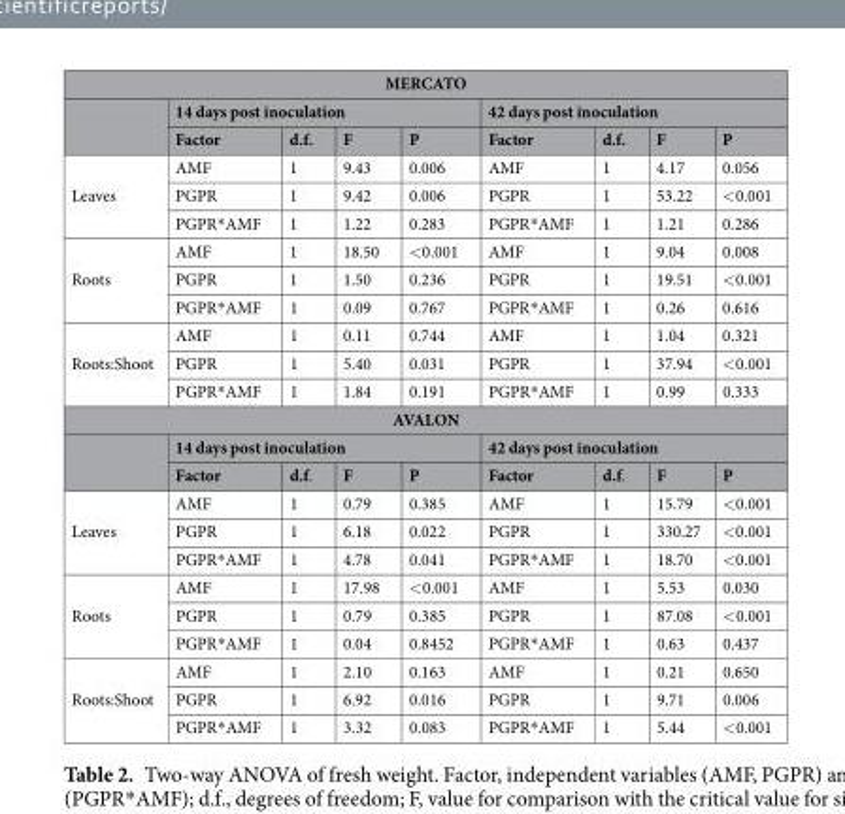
<table><thead><tr><td colspan="9">MERCATO</td></tr><tr><td rowspan="2"></td><td colspan="4">14 days post inoculation</td><td colspan="4">42 days post inoculation</td></tr><tr><td>Factor</td><td>d.f.</td><td>F</td><td>P</td><td>Factor</td><td>d.f.</td><td>F</td><td>P</td></tr></thead><tbody><tr><td rowspan="3">Leaves</td><td>AMF</td><td>1</td><td>9.43</td><td>0.006</td><td>AMF</td><td>1</td><td>4.17</td><td>0.056</td></tr><tr><td>PGPR</td><td>1</td><td>9.42</td><td>0.006</td><td>PGPR</td><td>1</td><td>53.22</td><td>&lt;0.001</td></tr><tr><td>PGPR*AMF</td><td>1</td><td>1.22</td><td>0.283</td><td>PGPR*AMF</td><td>1</td><td>1.21</td><td>0.286</td></tr><tr><td rowspan="3">Roots</td><td>AMF</td><td>1</td><td>18.50</td><td>&lt;0.001</td><td>AMF</td><td>1</td><td>9.04</td><td>0.008</td></tr><tr><td>PGPR</td><td>1</td><td>1.50</td><td>0.236</td><td>PGPR</td><td>1</td><td>19.51</td><td>&lt;0.001</td></tr><tr><td>PGPR*AMF</td><td>1</td><td>0.09</td><td>0.767</td><td>PGPR*AMF</td><td>1</td><td>0.26</td><td>0.616</td></tr><tr><td rowspan="3">Roots:Shoot</td><td>AMF</td><td>1</td><td>0.11</td><td>0.744</td><td>AMF</td><td>1</td><td>1.04</td><td>0.321</td></tr><tr><td>PGPR</td><td>1</td><td>5.40</td><td>0.031</td><td>PGPR</td><td>1</td><td>37.94</td><td>&lt;0.001</td></tr><tr><td>PGPR*AMF</td><td>1</td><td>1.84</td><td>0.191</td><td>PGPR*AMF</td><td>1</td><td>0.99</td><td>0.333</td></tr><tr><td colspan="9">AVALON</td></tr><tr><td rowspan="2"></td><td colspan="4">14 days post inoculation</td><td colspan="4">42 days post inoculation</td></tr><tr><td>Factor</td><td>d.f.</td><td>F</td><td>P</td><td>Factor</td><td>d.f.</td><td>F</td><td>P</td></tr><tr><td rowspan="3">Leaves</td><td>AMF</td><td>1</td><td>0.79</td><td>0.385</td><td>AMF</td><td>1</td><td>15.79</td><td>&lt;0.001</td></tr><tr><td>PGPR</td><td>1</td><td>6.18</td><td>0.022</td><td>PGPR</td><td>1</td><td>330.27</td><td>&lt;0.001</td></tr><tr><td>PGPR*AMF</td><td>1</td><td>4.78</td><td>0.041</td><td>PGPR*AMF</td><td>1</td><td>18.70</td><td>&lt;0.001</td></tr><tr><td rowspan="3">Roots</td><td>AMF</td><td>1</td><td>17.98</td><td>&lt;0.001</td><td>AMF</td><td>1</td><td>5.53</td><td>0.030</td></tr><tr><td>PGPR</td><td>1</td><td>0.79</td><td>0.385</td><td>PGPR</td><td>1</td><td>87.08</td><td>&lt;0.001</td></tr><tr><td>PGPR*AMF</td><td>1</td><td>0.04</td><td>0.8452</td><td>PGPR*AMF</td><td>1</td><td>0.63</td><td>0.437</td></tr><tr><td rowspan="3">Roots:Shoot</td><td>AMF</td><td>1</td><td>2.10</td><td>0.163</td><td>AMF</td><td>1</td><td>0.21</td><td>0.650</td></tr><tr><td>PGPR</td><td>1</td><td>6.92</td><td>0.016</td><td>PGPR</td><td>1</td><td>9.71</td><td>0.006</td></tr><tr><td>PGPR*AMF</td><td>1</td><td>3.32</td><td>0.083</td><td>PGPR*AMF</td><td>1</td><td>5.44</td><td>&lt;0.001</td></tr></tbody></table>